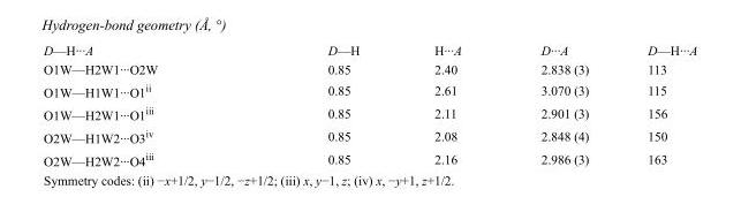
<table><tbody><tr><td>D—H···A</td><td>D—H</td><td>H···A</td><td>D···A</td><td>D—H···A</td></tr><tr><td>O1W—H2W1···O2W</td><td>0.85</td><td>2.40</td><td>2.838 (3)</td><td>113</td></tr><tr><td>O1W—H1W1···O1<sup>ii</sup></td><td>0.85</td><td>2.61</td><td>3.070 (3)</td><td>115</td></tr><tr><td>O1W—H2W1···O1<sup>iii</sup></td><td>0.85</td><td>2.11</td><td>2.901 (3)</td><td>156</td></tr><tr><td>O2W—H1W2···O3<sup>iv</sup></td><td>0.85</td><td>2.08</td><td>2.848 (4)</td><td>150</td></tr><tr><td>O2W—H2W2···O4<sup>iii</sup></td><td>0.85</td><td>2.16</td><td>2.986 (3)</td><td>163</td></tr></tbody></table>